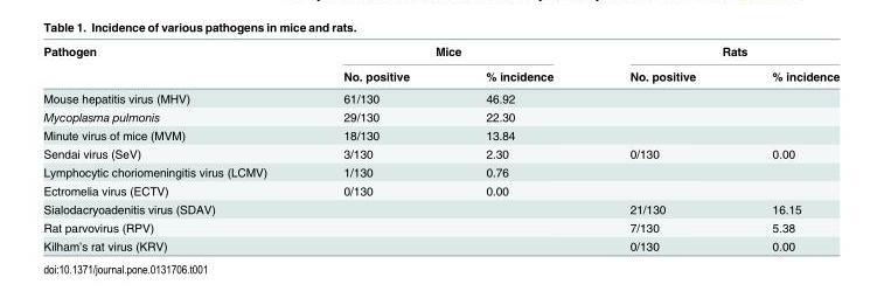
<table><thead><tr><td rowspan="2">Pathogen</td><td colspan="2">Mice</td><td colspan="2">Rats</td></tr><tr><td>No. positive</td><td>% incidence</td><td>No. positive</td><td>% incidence</td></tr></thead><tbody><tr><td>Mouse hepatitis virus (MHV)</td><td>61/130</td><td>46.92</td><td></td><td></td></tr><tr><td>Mycoplasma pulmonis</td><td>29/130</td><td>22.30</td><td></td><td></td></tr><tr><td>Minute virus of mice (MVM)</td><td>18/130</td><td>13.84</td><td></td><td></td></tr><tr><td>Sendai virus (SeV)</td><td>3/130</td><td>2.30</td><td>0/130</td><td>0.00</td></tr><tr><td>Lymphocytic choriomeningitis virus (LCMV)</td><td>1/130</td><td>0.76</td><td></td><td></td></tr><tr><td>Ectromelia virus (ECTV)</td><td>0/130</td><td>0.00</td><td></td><td></td></tr><tr><td>Sialodacryoadenitis virus (SDAV)</td><td></td><td></td><td>21/130</td><td>16.15</td></tr><tr><td>Rat parvovirus (RPV)</td><td></td><td></td><td>7/130</td><td>5.38</td></tr><tr><td>Kilham’s rat virus (KRV)</td><td></td><td></td><td>0/130</td><td>0.00</td></tr></tbody></table>